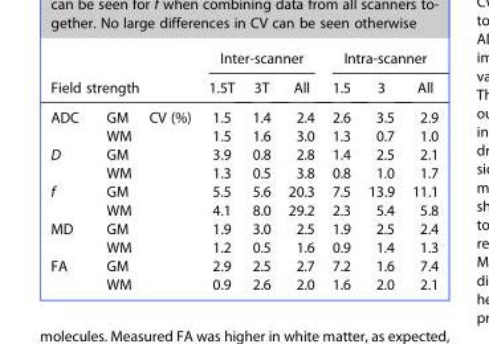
<table><thead><tr><td></td><td></td><td></td><td colspan="3">Inter-scanner</td><td colspan="3">Intra-scanner</td></tr><tr><td colspan="3">Field strength</td><td>1.5T</td><td>3T</td><td>All</td><td>1.5</td><td>3</td><td>All</td></tr></thead><tbody><tr><td rowspan="2">ADC</td><td>GM</td><td rowspan="10">CV (%)</td><td>1.5</td><td>1.4</td><td>2.4</td><td>2.6</td><td>3.5</td><td>2.9</td></tr><tr><td>WM</td><td>1.5</td><td>1.6</td><td>3.0</td><td>1.3</td><td>0.7</td><td>1.0</td></tr><tr><td rowspan="2">D</td><td>GM</td><td>3.9</td><td>0.8</td><td>2.8</td><td>1.4</td><td>2.5</td><td>2.1</td></tr><tr><td>WM</td><td>1.3</td><td>0.5</td><td>3.8</td><td>0.8</td><td>1.0</td><td>1.7</td></tr><tr><td rowspan="2">f</td><td>GM</td><td>5.5</td><td>5.6</td><td>20.3</td><td>7.5</td><td>13.9</td><td>11.1</td></tr><tr><td>WM</td><td>4.1</td><td>8.0</td><td>29.2</td><td>2.3</td><td>5.4</td><td>5.8</td></tr><tr><td rowspan="2">MD</td><td>GM</td><td>1.9</td><td>3.0</td><td>2.5</td><td>1.9</td><td>2.5</td><td>2.4</td></tr><tr><td>WM</td><td>1.2</td><td>0.5</td><td>1.6</td><td>0.9</td><td>1.4</td><td>1.3</td></tr><tr><td rowspan="2">FA</td><td>GM</td><td>2.9</td><td>2.5</td><td>2.7</td><td>7.2</td><td>1.6</td><td>7.4</td></tr><tr><td>WM</td><td>0.9</td><td>2.6</td><td>2.0</td><td>1.6</td><td>2.0</td><td>2.1</td></tr></tbody></table>